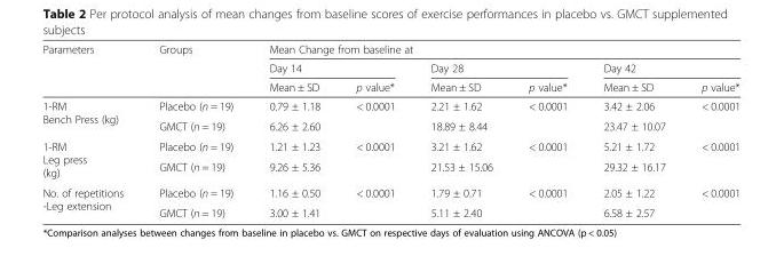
<table><thead><tr><td rowspan="3">Parameters</td><td rowspan="3">Groups</td><td colspan="6">Mean Change from baseline at</td></tr><tr><td colspan="2">Day 14</td><td colspan="2">Day 28</td><td colspan="2">Day 42</td></tr><tr><td>Mean ± SD</td><td>p value*</td><td>Mean ± SD</td><td>p value*</td><td>Mean ± SD</td><td>p value*</td></tr></thead><tbody><tr><td rowspan="2">1-RM Bench Press (kg)</td><td>Placebo (n = 19)</td><td>0.79 ± 1.18</td><td rowspan="2">&lt; 0.0001</td><td>2.21 ± 1.62</td><td rowspan="2">&lt; 0.0001</td><td>3.42 ± 2.06</td><td rowspan="2">&lt; 0.0001</td></tr><tr><td>GMCT (n = 19)</td><td>6.26 ± 2.60</td><td>18.89 ± 8.44</td><td>23.47 ± 10.07</td></tr><tr><td rowspan="2">1-RM Leg press (kg)</td><td>Placebo (n = 19)</td><td>1.21 ± 1.23</td><td rowspan="2">&lt; 0.0001</td><td>3.21 ± 1.62</td><td rowspan="2">&lt; 0.0001</td><td>5.21 ± 1.72</td><td rowspan="2">&lt; 0.0001</td></tr><tr><td>GMCT (n = 19)</td><td>9.26 ± 5.36</td><td>21.53 ± 15.06</td><td>29.32 ± 16.17</td></tr><tr><td rowspan="2">No. of repetitions -Leg extension</td><td>Placebo (n = 19)</td><td>1.16 ± 0.50</td><td rowspan="2">&lt; 0.0001</td><td>1.79 ± 0.71</td><td rowspan="2">&lt; 0.0001</td><td>2.05 ± 1.22</td><td rowspan="2">&lt; 0.0001</td></tr><tr><td>GMCT (n = 19)</td><td>3.00 ± 1.41</td><td>5.11 ± 2.40</td><td>6.58 ± 2.57</td></tr></tbody></table>